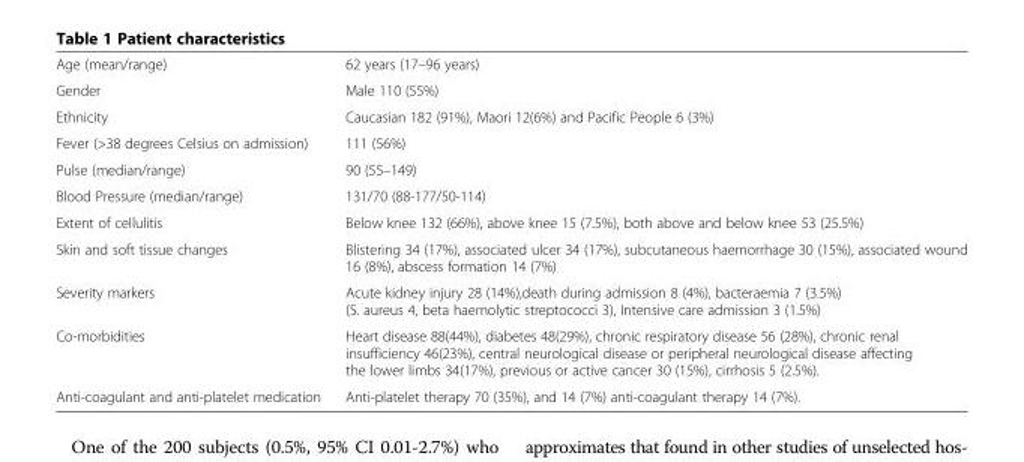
<table><tbody><tr><td>Age (mean/range)</td><td>62 years (17–96 years)</td></tr><tr><td>Gender</td><td>Male 110 (55%)</td></tr><tr><td>Ethnicity</td><td>Caucasian 182 (91%), Maori 12(6%) and Pacific People 6 (3%)</td></tr><tr><td>Fever (&gt;38 degrees Celsius on admission)</td><td>111 (56%)</td></tr><tr><td>Pulse (median/range)</td><td>90 (55–149)</td></tr><tr><td>Blood Pressure (median/range)</td><td>131/70 (88-177/50-114)</td></tr><tr><td>Extent of cellulitis</td><td>Below knee 132 (66%), above knee 15 (7.5%), both above and below knee 53 (25.5%)</td></tr><tr><td>Skin and soft tissue changes</td><td>Blistering 34 (17%), associated ulcer 34 (17%), subcutaneous haemorrhage 30 (15%), associated wound 16 (8%), abscess formation 14 (7%)</td></tr><tr><td>Severity markers</td><td>Acute kidney injury 28 (14%),death during admission 8 (4%), bacteraemia 7 (3.5%) (S. aureus 4, beta haemolytic streptococci 3), Intensive care admission 3 (1.5%)</td></tr><tr><td>Co-morbidities</td><td>Heart disease 88(44%), diabetes 48(29%), chronic respiratory disease 56 (28%), chronic renal insufficiency 46(23%), central neurological disease or peripheral neurological disease affecting the lower limbs 34(17%), previous or active cancer 30 (15%), cirrhosis 5 (2.5%).</td></tr><tr><td>Anti-coagulant and anti-platelet medication</td><td>Anti-platelet therapy 70 (35%), and 14 (7%) anti-coagulant therapy 14 (7%).</td></tr></tbody></table>